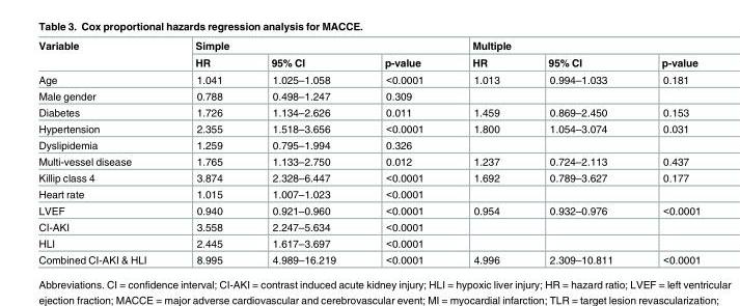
<table><thead><tr><td rowspan="2">Variable</td><td colspan="3">Simple</td><td colspan="3">Multiple</td></tr><tr><td>HR</td><td>95% CI</td><td>p-value</td><td>HR</td><td>95% CI</td><td>p-value</td></tr></thead><tbody><tr><td>Age</td><td>1.041</td><td>1.025–1.058</td><td>&lt;0.0001</td><td>1.013</td><td>0.994–1.033</td><td>0.181</td></tr><tr><td>Male gender</td><td>0.788</td><td>0.498–1.247</td><td>0.309</td><td></td><td></td><td></td></tr><tr><td>Diabetes</td><td>1.726</td><td>1.134–2.626</td><td>0.011</td><td>1.459</td><td>0.869–2.450</td><td>0.153</td></tr><tr><td>Hypertension</td><td>2.355</td><td>1.518–3.656</td><td>&lt;0.0001</td><td>1.800</td><td>1.054–3.074</td><td>0.031</td></tr><tr><td>Dyslipidemia</td><td>1.259</td><td>0.795–1.994</td><td>0.326</td><td></td><td></td><td></td></tr><tr><td>Multi-vessel disease</td><td>1.765</td><td>1.133–2.750</td><td>0.012</td><td>1.237</td><td>0.724–2.113</td><td>0.437</td></tr><tr><td>Killip class 4</td><td>3.874</td><td>2.328–6.447</td><td>&lt;0.0001</td><td>1.692</td><td>0.789–3.627</td><td>0.177</td></tr><tr><td>Heart rate</td><td>1.015</td><td>1.007–1.023</td><td>&lt;0.0001</td><td></td><td></td><td></td></tr><tr><td>LVEF</td><td>0.940</td><td>0.921–0.960</td><td>&lt;0.0001</td><td>0.954</td><td>0.932–0.976</td><td>&lt;0.0001</td></tr><tr><td>CI-AKI</td><td>3.558</td><td>2.247–5.634</td><td>&lt;0.0001</td><td></td><td></td><td></td></tr><tr><td>HLI</td><td>2.445</td><td>1.617–3.697</td><td>&lt;0.0001</td><td></td><td></td><td></td></tr><tr><td>Combined CI-AKI &amp; HLI</td><td>8.995</td><td>4.989–16.219</td><td>&lt;0.0001</td><td>4.996</td><td>2.309–10.811</td><td>&lt;0.0001</td></tr></tbody></table>